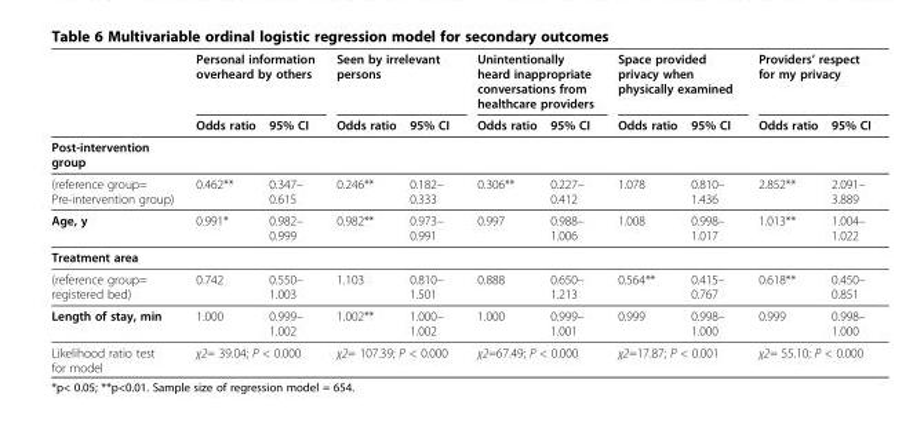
<table><thead><tr><td rowspan="2"></td><td colspan="2">Personal information overheard by others</td><td colspan="2">Seen by irrelevant persons</td><td colspan="2">Unintentionally heard inappropriate conversations from healthcare providers</td><td colspan="2">Space provided privacy when physically examined</td><td colspan="2">Providers’ respect for my privacy</td></tr><tr><td>Odds ratio</td><td>95% CI</td><td>Odds ratio</td><td>95% CI</td><td>Odds ratio</td><td>95% CI</td><td>Odds ratio</td><td>95% CI</td><td>Odds ratio</td><td>95% CI</td></tr></thead><tbody><tr><td colspan="11">Post-intervention group</td></tr><tr><td>(reference group= Pre-intervention group)</td><td>0.462**</td><td>0.347– 0.615</td><td>0.246**</td><td>0.182– 0.333</td><td>0.306**</td><td>0.227– 0.412</td><td>1.078</td><td>0.810– 1.436</td><td>2.852**</td><td>2.091– 3.889</td></tr><tr><td>Age, y</td><td>0.991*</td><td>0.982– 0.999</td><td>0.982**</td><td>0.973– 0.991</td><td>0.997</td><td>0.988– 1.006</td><td>1.008</td><td>0.998– 1.017</td><td>1.013**</td><td>1.004– 1.022</td></tr><tr><td colspan="11">Treatment area</td></tr><tr><td>(reference group= registered bed)</td><td>0.742</td><td>0.550– 1.003</td><td>1.103</td><td>0.810– 1.501</td><td>0.888</td><td>0.650– 1.213</td><td>0.564**</td><td>0.415– 0.767</td><td>0.618**</td><td>0.450– 0.851</td></tr><tr><td>Length of stay, min</td><td>1.000</td><td>0.999– 1.002</td><td>1.002**</td><td>1.000– 1.002</td><td>1.000</td><td>0.999– 1.001</td><td>0.999</td><td>0.998– 1.000</td><td>0.999</td><td>0.998– 1.000</td></tr><tr><td>Likelihood ratio test for model</td><td colspan="2">χ2= 39.04; P &lt; 0.000</td><td colspan="2">χ2= 107.39; P &lt; 0.000</td><td colspan="2">χ2=67.49; P &lt; 0.000</td><td colspan="2">χ2=17.87; P &lt; 0.001</td><td colspan="2">χ2= 55.10; P &lt; 0.000</td></tr></tbody></table>